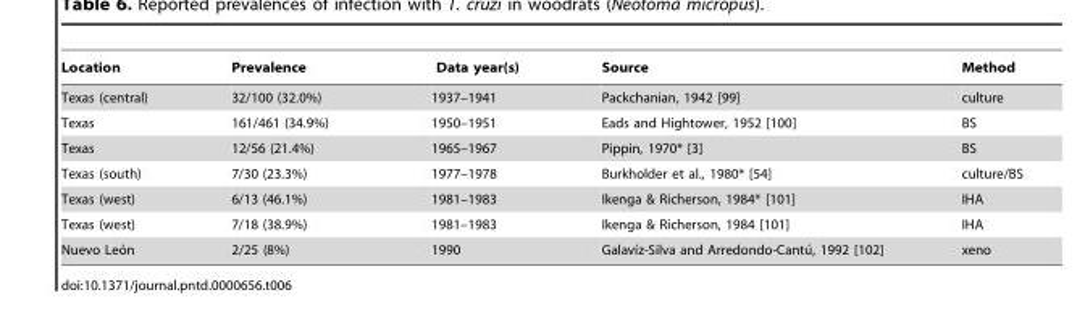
<table><thead><tr><td>Location</td><td>Prevalence</td><td>Data year(s)</td><td>Source</td><td>Method</td></tr></thead><tbody><tr><td>Texas (central)</td><td>32/100 (32.0%)</td><td>1937–1941</td><td>Packchanian, 1942 [99]</td><td>culture</td></tr><tr><td>Texas</td><td>161/461 (34.9%)</td><td>1950–1951</td><td>Eads and Hightower, 1952 [100]</td><td>BS</td></tr><tr><td>Texas</td><td>12/56 (21.4%)</td><td>1965–1967</td><td>Pippin, 1970* [3]</td><td>BS</td></tr><tr><td>Texas (south)</td><td>7/30 (23.3%)</td><td>1977–1978</td><td>Burkholder et al., 1980* [54]</td><td>culture/BS</td></tr><tr><td>Texas (west)</td><td>6/13 (46.1%)</td><td>1981–1983</td><td>Ikenga &amp; Richerson, 1984* [101]</td><td>IHA</td></tr><tr><td>Texas (west)</td><td>7/18 (38.9%)</td><td>1981–1983</td><td>Ikenga &amp; Richerson, 1984 [101]</td><td>IHA</td></tr><tr><td>Nuevo Leo´n</td><td>2/25 (8%)</td><td>1990</td><td>Galavı´z-Silva and Arredondo-Cantu´, 1992 [102]</td><td>xeno</td></tr></tbody></table>